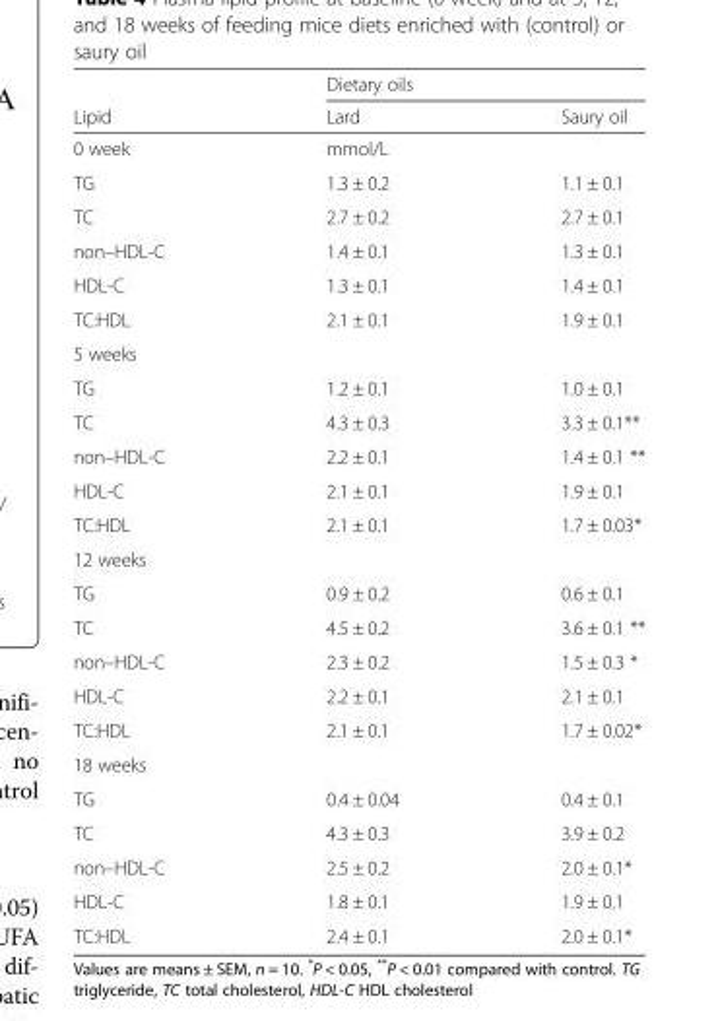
<table><thead><tr><td rowspan="2">Lipid</td><td colspan="2">Dietary oils</td></tr><tr><td>Lard</td><td>Saury oil</td></tr></thead><tbody><tr><td>0 week</td><td colspan="2">mmol/L</td></tr><tr><td>TG</td><td>1.3 ± 0.2</td><td>1.1 ± 0.1</td></tr><tr><td>TC</td><td>2.7 ± 0.2</td><td>2.7 ± 0.1</td></tr><tr><td>non–HDL-C</td><td>1.4 ± 0.1</td><td>1.3 ± 0.1</td></tr><tr><td>HDL-C</td><td>1.3 ± 0.1</td><td>1.4 ± 0.1</td></tr><tr><td>TC:HDL</td><td>2.1 ± 0.1</td><td>1.9 ± 0.1</td></tr><tr><td colspan="3">5 weeks</td></tr><tr><td>TG</td><td>1.2 ± 0.1</td><td>1.0 ± 0.1</td></tr><tr><td>TC</td><td>4.3 ± 0.3</td><td>3.3 ± 0.1**</td></tr><tr><td>non–HDL-C</td><td>2.2 ± 0.1</td><td>1.4 ± 0.1 **</td></tr><tr><td>HDL-C</td><td>2.1 ± 0.1</td><td>1.9 ± 0.1</td></tr><tr><td>TC:HDL</td><td>2.1 ± 0.1</td><td>1.7 ± 0.03*</td></tr><tr><td colspan="3">12 weeks</td></tr><tr><td>TG</td><td>0.9 ± 0.2</td><td>0.6 ± 0.1</td></tr><tr><td>TC</td><td>4.5 ± 0.2</td><td>3.6 ± 0.1 **</td></tr><tr><td>non–HDL-C</td><td>2.3 ± 0.2</td><td>1.5 ± 0.3 *</td></tr><tr><td>HDL-C</td><td>2.2 ± 0.1</td><td>2.1 ± 0.1</td></tr><tr><td>TC:HDL</td><td>2.1 ± 0.1</td><td>1.7 ± 0.02*</td></tr><tr><td colspan="3">18 weeks</td></tr><tr><td>TG</td><td>0.4 ± 0.04</td><td>0.4 ± 0.1</td></tr><tr><td>TC</td><td>4.3 ± 0.3</td><td>3.9 ± 0.2</td></tr><tr><td>non–HDL-C</td><td>2.5 ± 0.2</td><td>2.0 ± 0.1*</td></tr><tr><td>HDL-C</td><td>1.8 ± 0.1</td><td>1.9 ± 0.1</td></tr><tr><td>TC:HDL</td><td>2.4 ± 0.1</td><td>2.0 ± 0.1*</td></tr></tbody></table>